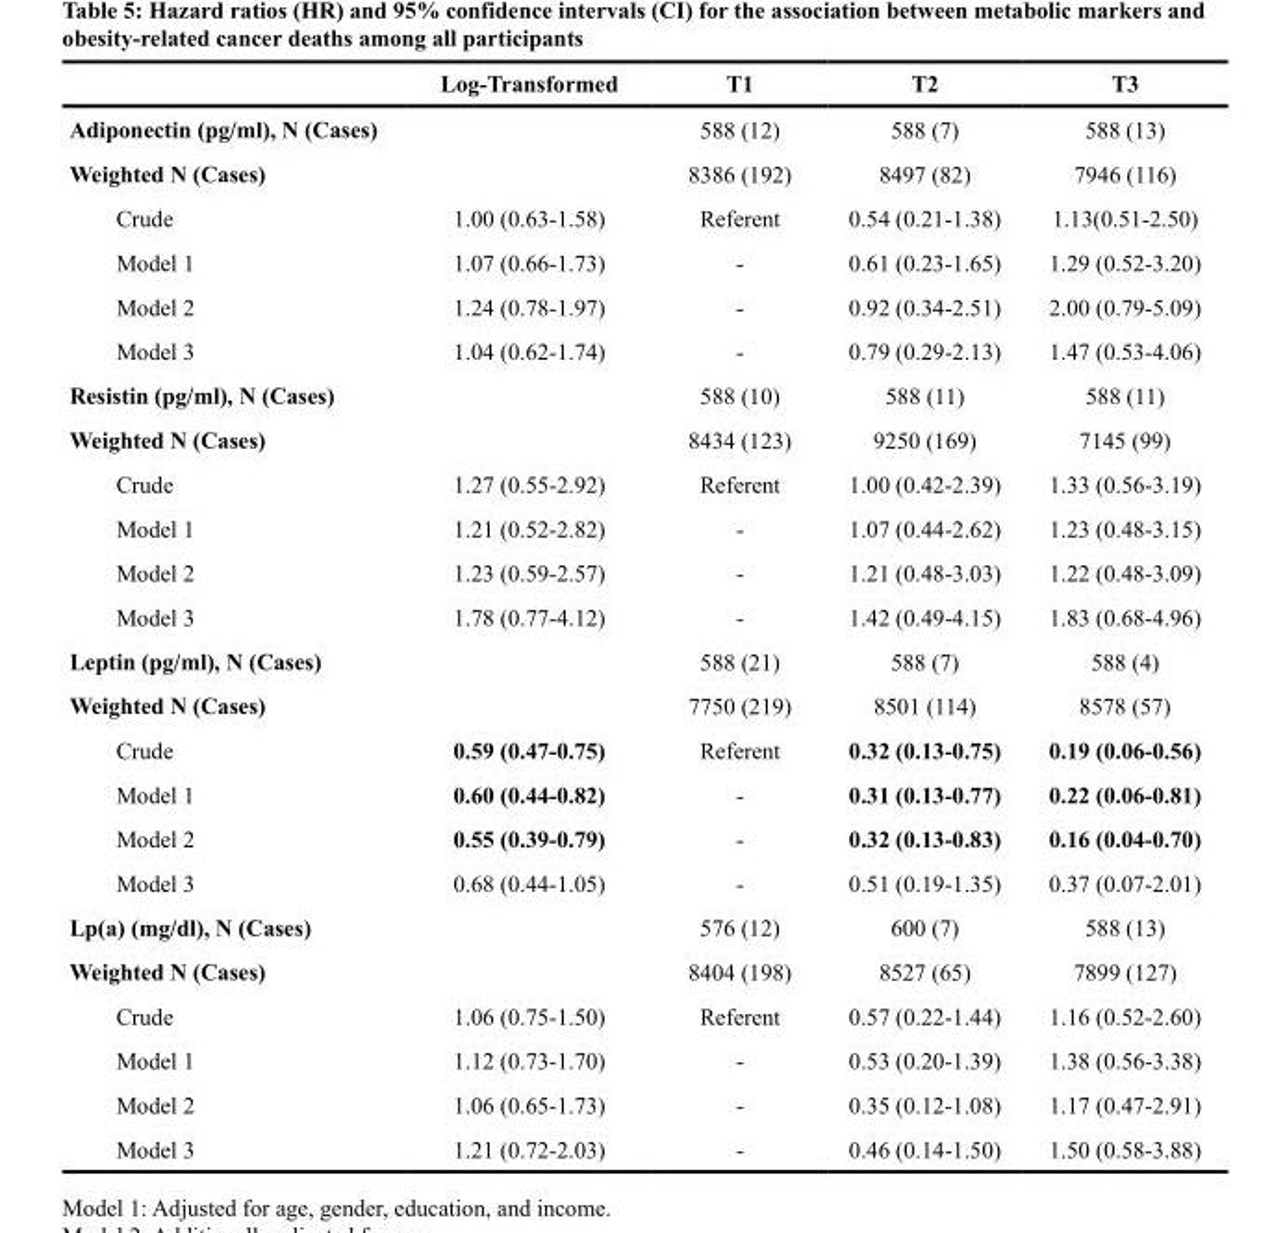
<table><thead><tr><td></td><td>Log-Transformed</td><td>T1</td><td>T2</td><td>T3</td></tr></thead><tbody><tr><td>Adiponectin (pg/ml), N (Cases)</td><td></td><td>588 (12)</td><td>588 (7)</td><td>588 (13)</td></tr><tr><td>Weighted N (Cases)</td><td></td><td>8386 (192)</td><td>8497 (82)</td><td>7946 (116)</td></tr><tr><td>Crude</td><td>1.00 (0.63-1.58)</td><td>Referent</td><td>0.54 (0.21-1.38)</td><td>1.13(0.51-2.50)</td></tr><tr><td>Model 1</td><td>1.07 (0.66-1.73)</td><td>-</td><td>0.61 (0.23-1.65)</td><td>1.29 (0.52-3.20)</td></tr><tr><td>Model 2</td><td>1.24 (0.78-1.97)</td><td>-</td><td>0.92 (0.34-2.51)</td><td>2.00 (0.79-5.09)</td></tr><tr><td>Model 3</td><td>1.04 (0.62-1.74)</td><td>-</td><td>0.79 (0.29-2.13)</td><td>1.47 (0.53-4.06)</td></tr><tr><td>Resistin (pg/ml), N (Cases)</td><td></td><td>588 (10)</td><td>588 (11)</td><td>588 (11)</td></tr><tr><td>Weighted N (Cases)</td><td></td><td>8434 (123)</td><td>9250 (169)</td><td>7145 (99)</td></tr><tr><td>Crude</td><td>1.27 (0.55-2.92)</td><td>Referent</td><td>1.00 (0.42-2.39)</td><td>1.33 (0.56-3.19)</td></tr><tr><td>Model 1</td><td>1.21 (0.52-2.82)</td><td>-</td><td>1.07 (0.44-2.62)</td><td>1.23 (0.48-3.15)</td></tr><tr><td>Model 2</td><td>1.23 (0.59-2.57)</td><td>-</td><td>1.21 (0.48-3.03)</td><td>1.22 (0.48-3.09)</td></tr><tr><td>Model 3</td><td>1.78 (0.77-4.12)</td><td>-</td><td>1.42 (0.49-4.15)</td><td>1.83 (0.68-4.96)</td></tr><tr><td>Leptin (pg/ml), N (Cases)</td><td></td><td>588 (21)</td><td>588 (7)</td><td>588 (4)</td></tr><tr><td>Weighted N (Cases)</td><td></td><td>7750 (219)</td><td>8501 (114)</td><td>8578 (57)</td></tr><tr><td>Crude</td><td>0.59 (0.47-0.75)</td><td>Referent</td><td>0.32 (0.13-0.75)</td><td>0.19 (0.06-0.56)</td></tr><tr><td>Model 1</td><td>0.60 (0.44-0.82)</td><td>-</td><td>0.31 (0.13-0.77)</td><td>0.22 (0.06-0.81)</td></tr><tr><td>Model 2</td><td>0.55 (0.39-0.79)</td><td>-</td><td>0.32 (0.13-0.83)</td><td>0.16 (0.04-0.70)</td></tr><tr><td>Model 3</td><td>0.68 (0.44-1.05)</td><td>-</td><td>0.51 (0.19-1.35)</td><td>0.37 (0.07-2.01)</td></tr><tr><td>Lp(a) (mg/dl), N (Cases)</td><td></td><td>576 (12)</td><td>600 (7)</td><td>588 (13)</td></tr><tr><td>Weighted N (Cases)</td><td></td><td>8404 (198)</td><td>8527 (65)</td><td>7899 (127)</td></tr><tr><td>Crude</td><td>1.06 (0.75-1.50)</td><td>Referent</td><td>0.57 (0.22-1.44)</td><td>1.16 (0.52-2.60)</td></tr><tr><td>Model 1</td><td>1.12 (0.73-1.70)</td><td>-</td><td>0.53 (0.20-1.39)</td><td>1.38 (0.56-3.38)</td></tr><tr><td>Model 2</td><td>1.06 (0.65-1.73)</td><td>-</td><td>0.35 (0.12-1.08)</td><td>1.17 (0.47-2.91)</td></tr><tr><td>Model 3</td><td>1.21 (0.72-2.03)</td><td>-</td><td>0.46 (0.14-1.50)</td><td>1.50 (0.58-3.88)</td></tr></tbody></table>